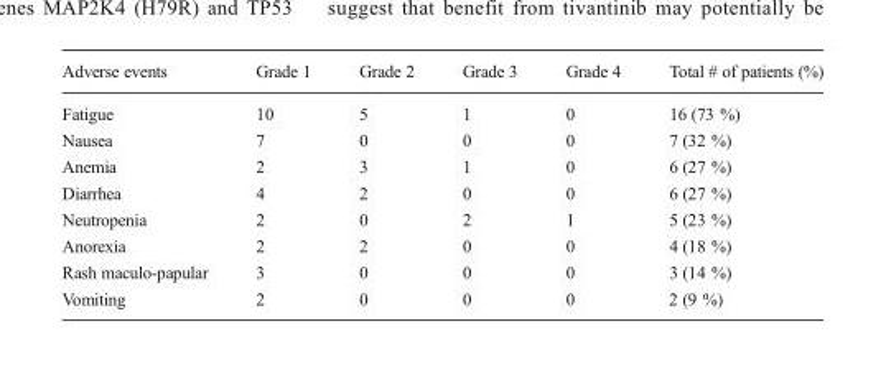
<table><thead><tr><td>Adverse events</td><td>Grade 1</td><td>Grade 2</td><td>Grade 3</td><td>Grade 4</td><td>Total # of patients (%)</td></tr></thead><tbody><tr><td>Fatigue</td><td>10</td><td>5</td><td>1</td><td>0</td><td>16 (73 %)</td></tr><tr><td>Nausea</td><td>7</td><td>0</td><td>0</td><td>0</td><td>7 (32 %)</td></tr><tr><td>Anemia</td><td>2</td><td>3</td><td>1</td><td>0</td><td>6 (27 %)</td></tr><tr><td>Diarrhea</td><td>4</td><td>2</td><td>0</td><td>0</td><td>6 (27 %)</td></tr><tr><td>Neutropenia</td><td>2</td><td>0</td><td>2</td><td>1</td><td>5 (23 %)</td></tr><tr><td>Anorexia</td><td>2</td><td>2</td><td>0</td><td>0</td><td>4 (18 %)</td></tr><tr><td>Rash maculo-papular</td><td>3</td><td>0</td><td>0</td><td>0</td><td>3 (14 %)</td></tr><tr><td>Vomiting</td><td>2</td><td>0</td><td>0</td><td>0</td><td>2 (9 %)</td></tr></tbody></table>